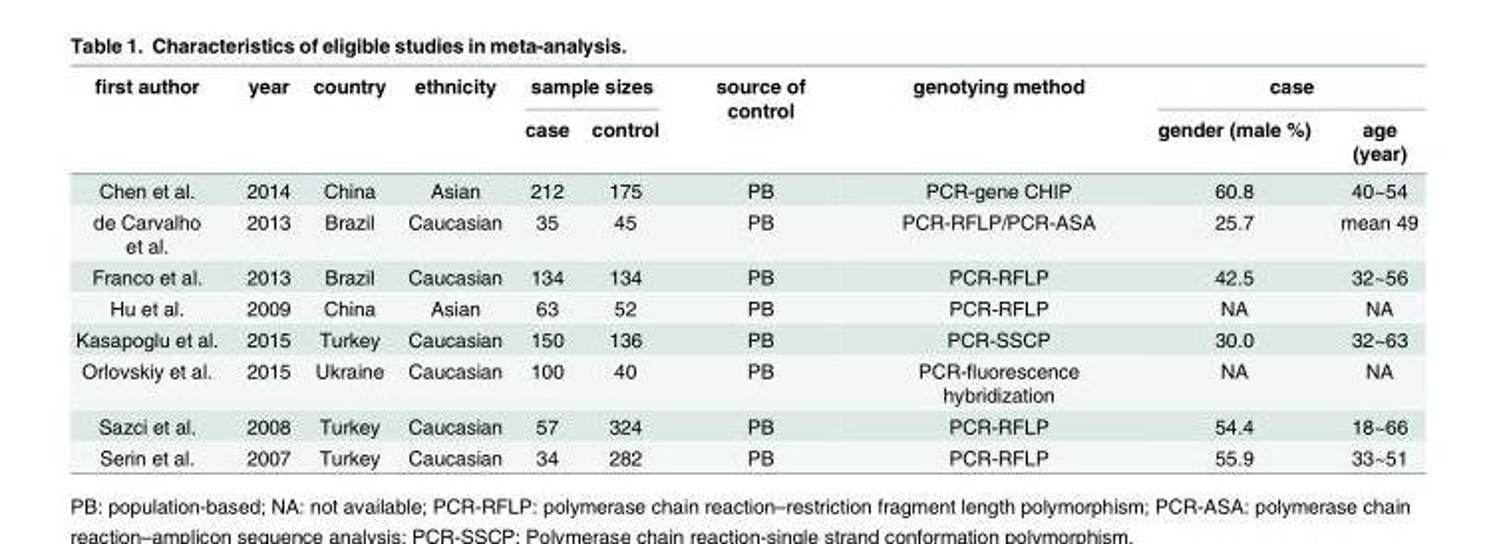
<table><thead><tr><td rowspan="2">first author</td><td rowspan="2">year</td><td rowspan="2">country</td><td rowspan="2">ethnicity</td><td colspan="2">sample sizes</td><td rowspan="2">source of control</td><td rowspan="2">genotying method</td><td colspan="2">case</td></tr><tr><td>case</td><td>control</td><td>gender (male %)</td><td>age (year)</td></tr></thead><tbody><tr><td>Chen et al.</td><td>2014</td><td>China</td><td>Asian</td><td>212</td><td>175</td><td>PB</td><td>PCR-gene CHIP</td><td>60.8</td><td>40~54</td></tr><tr><td>de Carvalho et al.</td><td>2013</td><td>Brazil</td><td>Caucasian</td><td>35</td><td>45</td><td>PB</td><td>PCR-RFLP/PCR-ASA</td><td>25.7</td><td>mean 49</td></tr><tr><td>Franco et al.</td><td>2013</td><td>Brazil</td><td>Caucasian</td><td>134</td><td>134</td><td>PB</td><td>PCR-RFLP</td><td>42.5</td><td>32~56</td></tr><tr><td>Hu et al.</td><td>2009</td><td>China</td><td>Asian</td><td>63</td><td>52</td><td>PB</td><td>PCR-RFLP</td><td>NA</td><td>NA</td></tr><tr><td>Kasapoglu et al.</td><td>2015</td><td>Turkey</td><td>Caucasian</td><td>150</td><td>136</td><td>PB</td><td>PCR-SSCP</td><td>30.0</td><td>32~63</td></tr><tr><td>Orlovskiy et al.</td><td>2015</td><td>Ukraine</td><td>Caucasian</td><td>100</td><td>40</td><td>PB</td><td>PCR-fluorescence hybridization</td><td>NA</td><td>NA</td></tr><tr><td>Sazci et al.</td><td>2008</td><td>Turkey</td><td>Caucasian</td><td>57</td><td>324</td><td>PB</td><td>PCR-RFLP</td><td>54.4</td><td>18~66</td></tr><tr><td>Serin et al.</td><td>2007</td><td>Turkey</td><td>Caucasian</td><td>34</td><td>282</td><td>PB</td><td>PCR-RFLP</td><td>55.9</td><td>33~51</td></tr></tbody></table>